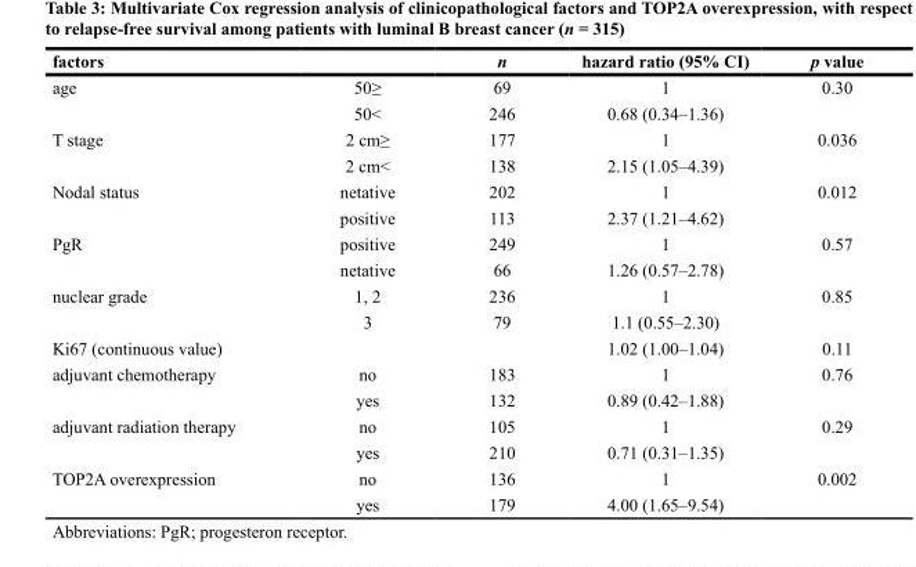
<table><thead><tr><td>factors</td><td></td><td>n</td><td>hazard ratio (95% CI)</td><td>p value</td></tr></thead><tbody><tr><td rowspan="2">age</td><td>50≥</td><td>69</td><td>1</td><td>0.30</td></tr><tr><td>50&lt;</td><td>246</td><td>0.68 (0.34–1.36)</td><td></td></tr><tr><td rowspan="2">T stage</td><td>2 cm≥</td><td>177</td><td>1</td><td>0.036</td></tr><tr><td>2 cm&lt;</td><td>138</td><td>2.15 (1.05–4.39)</td><td></td></tr><tr><td rowspan="2">Nodal status</td><td>netative</td><td>202</td><td>1</td><td>0.012</td></tr><tr><td>positive</td><td>113</td><td>2.37 (1.21–4.62)</td><td></td></tr><tr><td rowspan="2">PgR</td><td>positive</td><td>249</td><td>1</td><td>0.57</td></tr><tr><td>netative</td><td>66</td><td>1.26 (0.57–2.78)</td><td></td></tr><tr><td rowspan="2">nuclear grade</td><td>1, 2</td><td>236</td><td>1</td><td>0.85</td></tr><tr><td>3</td><td>79</td><td>1.1 (0.55–2.30)</td><td></td></tr><tr><td>Ki67 (continuous value)</td><td></td><td></td><td>1.02 (1.00–1.04)</td><td>0.11</td></tr><tr><td rowspan="2">adjuvant chemotherapy</td><td>no</td><td>183</td><td>1</td><td>0.76</td></tr><tr><td>yes</td><td>132</td><td>0.89 (0.42–1.88)</td><td></td></tr><tr><td rowspan="2">adjuvant radiation therapy</td><td>no</td><td>105</td><td>1</td><td>0.29</td></tr><tr><td>yes</td><td>210</td><td>0.71 (0.31–1.35)</td><td></td></tr><tr><td rowspan="2">TOP2A overexpression</td><td>no</td><td>136</td><td>1</td><td>0.002</td></tr><tr><td>yes</td><td>179</td><td>4.00 (1.65–9.54)</td><td></td></tr></tbody></table>